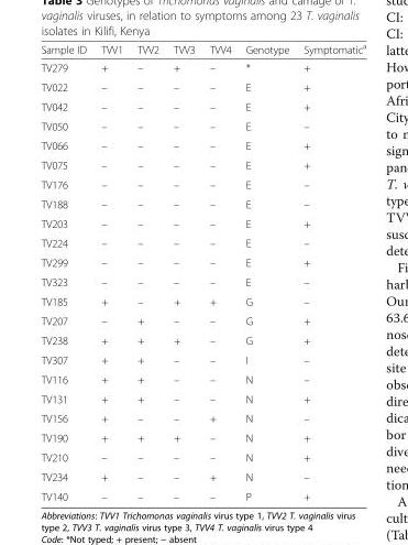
<table><thead><tr><td>Sample ID</td><td>TVV1</td><td>TVV2</td><td>TVV3</td><td>TVV4</td><td>Genotype</td><td>Symptomatic<sup>a</sup></td></tr></thead><tbody><tr><td>TV279</td><td>+</td><td>–</td><td>+</td><td>–</td><td>*</td><td>+</td></tr><tr><td>TV022</td><td>–</td><td>–</td><td>–</td><td>–</td><td>E</td><td>+</td></tr><tr><td>TV042</td><td>–</td><td>–</td><td>–</td><td>–</td><td>E</td><td>+</td></tr><tr><td>TV050</td><td>–</td><td>–</td><td>–</td><td>–</td><td>E</td><td>–</td></tr><tr><td>TV066</td><td>–</td><td>–</td><td>–</td><td>–</td><td>E</td><td>+</td></tr><tr><td>TV075</td><td>–</td><td>–</td><td>–</td><td>–</td><td>E</td><td>+</td></tr><tr><td>TV176</td><td>–</td><td>–</td><td>–</td><td>–</td><td>E</td><td>–</td></tr><tr><td>TV188</td><td>–</td><td>–</td><td>–</td><td>–</td><td>E</td><td>–</td></tr><tr><td>TV203</td><td>–</td><td>–</td><td>–</td><td>–</td><td>E</td><td>+</td></tr><tr><td>TV224</td><td>–</td><td>–</td><td>–</td><td>–</td><td>E</td><td>–</td></tr><tr><td>TV299</td><td>–</td><td>–</td><td>–</td><td>–</td><td>E</td><td>+</td></tr><tr><td>TV323</td><td>–</td><td>–</td><td>–</td><td>–</td><td>E</td><td>–</td></tr><tr><td>TV185</td><td>+</td><td>–</td><td>+</td><td>+</td><td>G</td><td>–</td></tr><tr><td>TV207</td><td>–</td><td>+</td><td>–</td><td>–</td><td>G</td><td>+</td></tr><tr><td>TV238</td><td>+</td><td>+</td><td>+</td><td>–</td><td>G</td><td>+</td></tr><tr><td>TV307</td><td>+</td><td>+</td><td>–</td><td>–</td><td>I</td><td>–</td></tr><tr><td>TV116</td><td>+</td><td>+</td><td>–</td><td>–</td><td>N</td><td>–</td></tr><tr><td>TV131</td><td>+</td><td>+</td><td>–</td><td>–</td><td>N</td><td>+</td></tr><tr><td>TV156</td><td>+</td><td>–</td><td>–</td><td>+</td><td>N</td><td>–</td></tr><tr><td>TV190</td><td>+</td><td>+</td><td>+</td><td>–</td><td>N</td><td>+</td></tr><tr><td>TV210</td><td>–</td><td>–</td><td>–</td><td>–</td><td>N</td><td>+</td></tr><tr><td>TV234</td><td>+</td><td>–</td><td>–</td><td>+</td><td>N</td><td>–</td></tr><tr><td>TV140</td><td>–</td><td>–</td><td>–</td><td>–</td><td>P</td><td>+</td></tr></tbody></table>